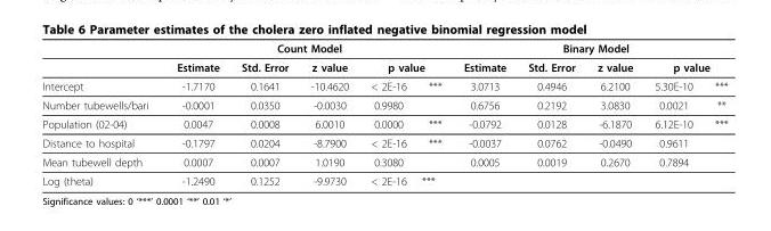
<table><thead><tr><td rowspan="3">Intercept</td><td colspan="5">Count Model</td><td colspan="5">Binary Model</td></tr><tr><td rowspan="2">Estimate -1.7170</td><td rowspan="2">Std. Error 0.1641</td><td rowspan="2">z value -10.4620</td><td colspan="2">p value</td><td rowspan="2">Estimate 3.0713</td><td rowspan="2">Std. Error 0.4946</td><td rowspan="2">z value 6.2100</td><td colspan="2">p value</td></tr><tr><td>&lt; 2E-16</td><td>***</td><td>5.30E-10</td><td>***</td></tr></thead><tbody><tr><td>Number tubewells/bari</td><td>-0.0001</td><td>0.0350</td><td>-0.0030</td><td>0.9980</td><td></td><td>0.6756</td><td>0.2192</td><td>3.0830</td><td>0.0021</td><td>**</td></tr><tr><td>Population (02-04)</td><td>0.0047</td><td>0.0008</td><td>6.0010</td><td>0.0000</td><td>***</td><td>-0.0792</td><td>0.0128</td><td>-6.1870</td><td>6.12E-10</td><td>***</td></tr><tr><td>Distance to hospital</td><td>-0.1797</td><td>0.0204</td><td>-8.7900</td><td>&lt; 2E-16</td><td>***</td><td>-0.0037</td><td>0.0762</td><td>-0.0490</td><td>0.9611</td><td></td></tr><tr><td>Mean tubewell depth</td><td>0.0007</td><td>0.0007</td><td>1.0190</td><td>0.3080</td><td></td><td>0.0005</td><td>0.0019</td><td>0.2670</td><td>0.7894</td><td></td></tr><tr><td>Log (theta)</td><td>-1.2490</td><td>0.1252</td><td>-9.9730</td><td>&lt; 2E-16</td><td>***</td><td></td><td></td><td></td><td></td><td></td></tr></tbody></table>